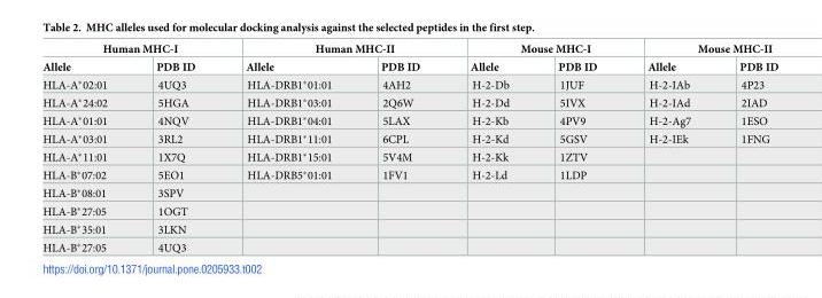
<table><thead><tr><td colspan="2">Human MHC-I</td><td colspan="2">Human MHC-II</td><td colspan="2">Mouse MHC-I</td><td colspan="2">Mouse MHC-II</td></tr><tr><td>Allele</td><td>PDB ID</td><td>Allele</td><td>PDB ID</td><td>Allele</td><td>PDB ID</td><td>Allele</td><td>PDB ID</td></tr></thead><tbody><tr><td>HLA-A*02:01</td><td>4UQ3</td><td>HLA-DRB1*01:01</td><td>4AH2</td><td>H-2-Db</td><td>1JUF</td><td>H-2-IAb</td><td>4P23</td></tr><tr><td>HLA-A*24:02</td><td>5HGA</td><td>HLA-DRB1*03:01</td><td>2Q6W</td><td>H-2-Dd</td><td>5IVX</td><td>H-2-IAd</td><td>2IAD</td></tr><tr><td>HLA-A*01:01</td><td>4NQV</td><td>HLA-DRB1*04:01</td><td>5LAX</td><td>H-2-Kb</td><td>4PV9</td><td>H-2-Ag7</td><td>1ESO</td></tr><tr><td>HLA-A*03:01</td><td>3RL2</td><td>HLA-DRB1*11:01</td><td>6CPL</td><td>H-2-Kd</td><td>5GSV</td><td>H-2-IEk</td><td>1FNG</td></tr><tr><td>HLA-A*11:01</td><td>1X7Q</td><td>HLA-DRB1*15:01</td><td>5V4M</td><td>H-2-Kk</td><td>1ZTV</td><td></td><td></td></tr><tr><td>HLA-B*07:02</td><td>5EO1</td><td>HLA-DRB5*01:01</td><td>1FV1</td><td>H-2-Ld</td><td>1LDP</td><td></td><td></td></tr><tr><td>HLA-B*08:01</td><td>3SPV</td><td></td><td></td><td></td><td></td><td></td><td></td></tr><tr><td>HLA-B*27:05</td><td>1OGT</td><td></td><td></td><td></td><td></td><td></td><td></td></tr><tr><td>HLA-B*35:01</td><td>3LKN</td><td></td><td></td><td></td><td></td><td></td><td></td></tr><tr><td>HLA-B*27:05</td><td>4UQ3</td><td></td><td></td><td></td><td></td><td></td><td></td></tr></tbody></table>